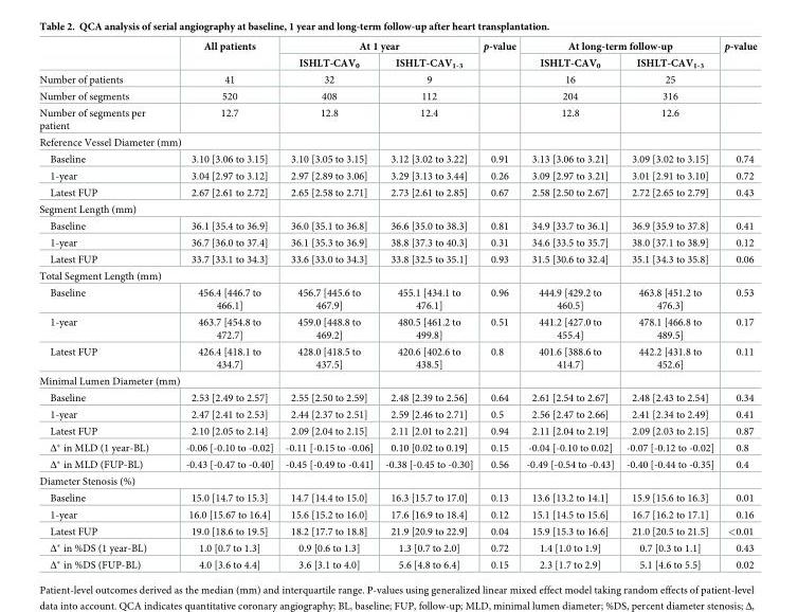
<table><thead><tr><td rowspan="2"></td><td rowspan="2">All patients</td><td colspan="2">At 1 year</td><td rowspan="2">p-value</td><td colspan="2">At long-term follow-up</td><td rowspan="2">p-value</td></tr><tr><td>ISHLT-CAV<sub>0</sub></td><td>ISHLT-CAV<sub>1-3</sub></td><td>ISHLT-CAV<sub>0</sub></td><td>ISHLT-CAV<sub>1-3</sub></td></tr></thead><tbody><tr><td>Number of patients</td><td>41</td><td>32</td><td>9</td><td></td><td>16</td><td>25</td><td></td></tr><tr><td>Number of segments</td><td>520</td><td>408</td><td>112</td><td></td><td>204</td><td>316</td><td></td></tr><tr><td>Number of segments per patient</td><td>12.7</td><td>12.8</td><td>12.4</td><td></td><td>12.8</td><td>12.6</td><td></td></tr><tr><td colspan="8">Reference Vessel Diameter (mm)</td></tr><tr><td>Baseline</td><td>3.10 [3.06 to 3.15]</td><td>3.10 [3.05 to 3.15]</td><td>3.12 [3.02 to 3.22]</td><td>0.91</td><td>3.13 [3.06 to 3.21]</td><td>3.09 [3.02 to 3.15]</td><td>0.74</td></tr><tr><td>1-year</td><td>3.04 [2.97 to 3.12]</td><td>2.97 [2.89 to 3.06]</td><td>3.29 [3.13 to 3.44]</td><td>0.26</td><td>3.09 [2.97 to 3.21]</td><td>3.01 [2.91 to 3.10]</td><td>0.72</td></tr><tr><td>Latest FUP</td><td>2.67 [2.61 to 2.72]</td><td>2.65 [2.58 to 2.71]</td><td>2.73 [2.61 to 2.85]</td><td>0.67</td><td>2.58 [2.50 to 2.67]</td><td>2.72 [2.65 to 2.79]</td><td>0.43</td></tr><tr><td colspan="8">Segment Length (mm)</td></tr><tr><td>Baseline</td><td>36.1 [35.4 to 36.9]</td><td>36.0 [35.1 to 36.8]</td><td>36.6 [35.0 to 38.3]</td><td>0.81</td><td>34.9 [33.7 to 36.1]</td><td>36.9 [35.9 to 37.8]</td><td>0.41</td></tr><tr><td>1-year</td><td>36.7 [36.0 to 37.4]</td><td>36.1 [35.3 to 36.9]</td><td>38.8 [37.3 to 40.3]</td><td>0.31</td><td>34.6 [33.5 to 35.7]</td><td>38.0 [37.1 to 38.9]</td><td>0.12</td></tr><tr><td>Latest FUP</td><td>33.7 [33.1 to 34.3]</td><td>33.6 [33.0 to 34.3]</td><td>33.8 [32.5 to 35.1]</td><td>0.93</td><td>31.5 [30.6 to 32.4]</td><td>35.1 [34.3 to 35.8]</td><td>0.06</td></tr><tr><td colspan="8">Total Segment Length (mm)</td></tr><tr><td>Baseline</td><td>456.4 [446.7 to 466.1]</td><td>456.7 [445.6 to 467.9]</td><td>455.1 [434.1 to 476.1]</td><td>0.96</td><td>444.9 [429.2 to 460.5]</td><td>463.8 [451.2 to 476.3]</td><td>0.53</td></tr><tr><td>1-year</td><td>463.7 [454.8 to 472.7]</td><td>459.0 [448.8 to 469.2]</td><td>480.5 [461.2 to 499.8]</td><td>0.51</td><td>441.2 [427.0 to 455.4]</td><td>478.1 [466.8 to 489.5]</td><td>0.17</td></tr><tr><td>Latest FUP</td><td>426.4 [418.1 to 434.7]</td><td>428.0 [418.5 to 437.5]</td><td>420.6 [402.6 to 438.5]</td><td>0.8</td><td>401.6 [388.6 to 414.7]</td><td>442.2 [431.8 to 452.6]</td><td>0.11</td></tr><tr><td colspan="8">Minimal Lumen Diameter (mm)</td></tr><tr><td>Baseline</td><td>2.53 [2.49 to 2.57]</td><td>2.55 [2.50 to 2.59]</td><td>2.48 [2.39 to 2.56]</td><td>0.64</td><td>2.61 [2.54 to 2.67]</td><td>2.48 [2.43 to 2.54]</td><td>0.34</td></tr><tr><td>1-year</td><td>2.47 [2.41 to 2.53]</td><td>2.44 [2.37 to 2.51]</td><td>2.59 [2.46 to 2.71]</td><td>0.5</td><td>2.56 [2.47 to 2.66]</td><td>2.41 [2.34 to 2.49]</td><td>0.41</td></tr><tr><td>Latest FUP</td><td>2.10 [2.05 to 2.14]</td><td>2.09 [2.04 to 2.15]</td><td>2.11 [2.01 to 2.21]</td><td>0.94</td><td>2.11 [2.04 to 2.19]</td><td>2.09 [2.03 to 2.15]</td><td>0.87</td></tr><tr><td>Δ* in MLD (1 year-BL)</td><td>-0.06 [-0.10 to -0.02]</td><td>-0.11 [-0.15 to -0.06]</td><td>0.10 [0.02 to 0.19]</td><td>0.15</td><td>-0.04 [-0.10 to 0.02]</td><td>-0.07 [-0.12 to -0.02]</td><td>0.8</td></tr><tr><td>Δ* in MLD (FUP-BL)</td><td>-0.43 [-0.47 to -0.40]</td><td>-0.45 [-0.49 to -0.41]</td><td>-0.38 [-0.45 to -0.30]</td><td>0.56</td><td>-0.49 [-0.54 to -0.43]</td><td>-0.40 [-0.44 to -0.35]</td><td>0.4</td></tr><tr><td colspan="8">Diameter Stenosis (%)</td></tr><tr><td>Baseline</td><td>15.0 [14.7 to 15.3]</td><td>14.7 [14.4 to 15.0]</td><td>16.3 [15.7 to 17.0]</td><td>0.13</td><td>13.6 [13.2 to 14.1]</td><td>15.9 [15.6 to 16.3]</td><td>0.01</td></tr><tr><td>1-year</td><td>16.0 [15.67 to 16.4]</td><td>15.6 [15.2 to 16.0]</td><td>17.6 [16.9 to 18.4]</td><td>0.12</td><td>15.1 [14.5 to 15.6]</td><td>16.7 [16.2 to 17.1]</td><td>0.16</td></tr><tr><td>Latest FUP</td><td>19.0 [18.6 to 19.5]</td><td>18.2 [17.7 to 18.8]</td><td>21.9 [20.9 to 22.9]</td><td>0.04</td><td>15.9 [15.3 to 16.6]</td><td>21.0 [20.5 to 21.5]</td><td>&lt;0.01</td></tr><tr><td>Δ* in %DS (1 year-BL)</td><td>1.0 [0.7 to 1.3]</td><td>0.9 [0.6 to 1.3]</td><td>1.3 [0.7 to 2.0]</td><td>0.72</td><td>1.4 [1.0 to 1.9]</td><td>0.7 [0.3 to 1.1]</td><td>0.43</td></tr><tr><td>Δ* in %DS (FUP-BL)</td><td>4.0 [3.6 to 4.4]</td><td>3.6 [3.1 to 4.0]</td><td>5.6 [4.8 to 6.4]</td><td>0.15</td><td>2.3 [1.7 to 2.9]</td><td>5.1 [4.6 to 5.5]</td><td>0.02</td></tr></tbody></table>